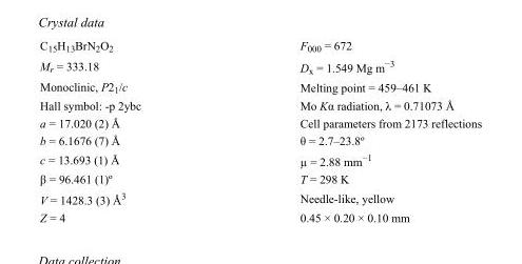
<table><tbody><tr><td>C<sub>15</sub>H<sub>13</sub>BrN<sub>2</sub>O<sub>2</sub></td><td>F000 = 672</td></tr><tr><td>M<sub>r</sub> = 333.18</td><td>D<sub>x</sub> = 1.549 Mg m<sup>−3</sup></td></tr><tr><td>Monoclinic, P2<sub>1</sub>/c</td><td>Melting point = 459–461 K</td></tr><tr><td>Hall symbol: -p 2ybc</td><td>Mo Kα radiation, λ = 0.71073 Å</td></tr><tr><td>a = 17.020 (2) Å</td><td>Cell parameters from 2173 reflections</td></tr><tr><td>b = 6.1676 (7) Å</td><td>θ = 2.7–23.8º</td></tr><tr><td>c = 13.693 (1) Å</td><td>µ = 2.88 mm<sup>−1</sup></td></tr><tr><td>β = 96.461 (1)º</td><td>T = 298 K</td></tr><tr><td>V = 1428.3 (3) Å<sup>3</sup></td><td>Needle-like, yellow</td></tr><tr><td>Z = 4</td><td>0.45 × 0.20 × 0.10 mm</td></tr></tbody></table>